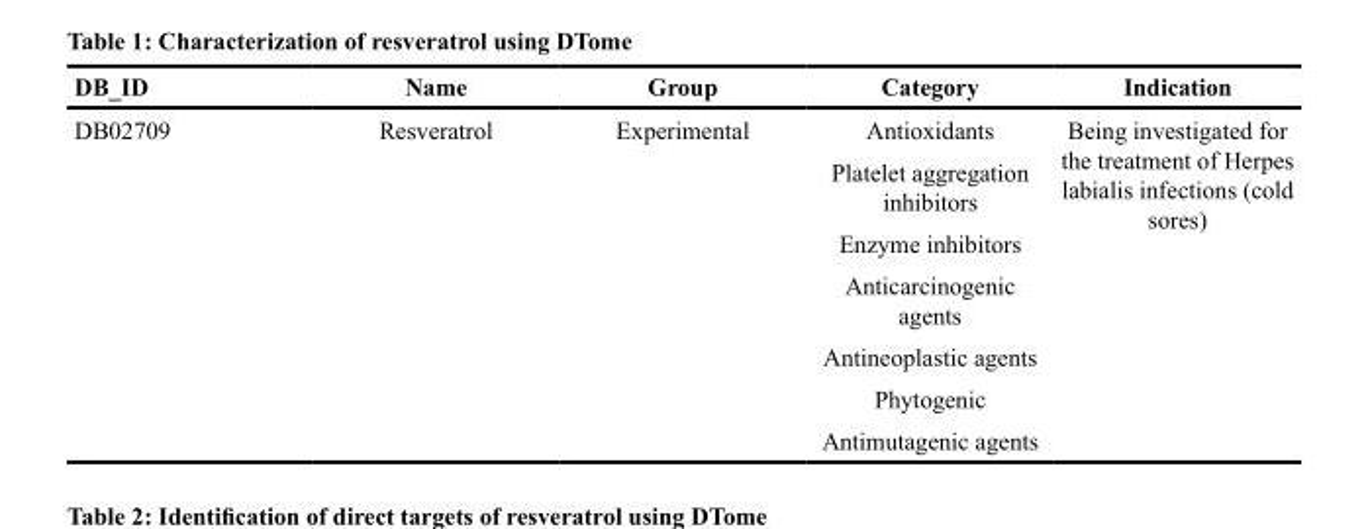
<table><thead><tr><td>DB_ID</td><td>Name</td><td>Group</td><td>Category</td><td>Indication</td></tr></thead><tbody><tr><td rowspan="7">DB02709</td><td rowspan="7">Resveratrol</td><td rowspan="7">Experimental</td><td>Antioxidants</td><td rowspan="7">Being investigated for the treatment of Herpes labialis infections (cold sores)</td></tr><tr><td>Platelet aggregation inhibitors</td></tr><tr><td>Enzyme inhibitors</td></tr><tr><td>Anticarcinogenic agents</td></tr><tr><td>Antineoplastic agents</td></tr><tr><td>Phytogenic</td></tr><tr><td>Antimutagenic agents</td></tr></tbody></table>